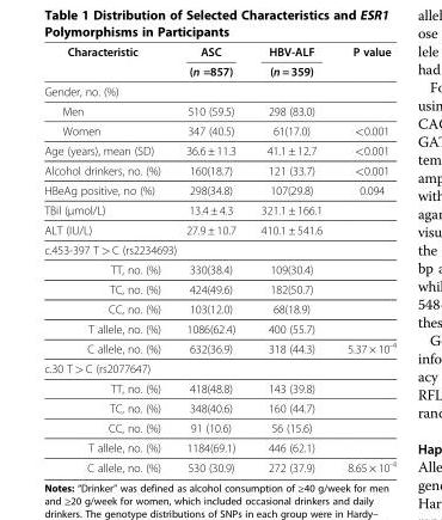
<table><thead><tr><td rowspan="2">Characteristic</td><td rowspan="2">ASC (n =857)</td><td rowspan="2">HBV-ALF (n = 359)</td><td rowspan="2">P value</td></tr><tr></tr></thead><tbody><tr><td colspan="4">Gender, no. (%)</td></tr><tr><td>Men</td><td>510 (59.5)</td><td>298 (83.0)</td><td></td></tr><tr><td>Women</td><td>347 (40.5)</td><td>61(17.0)</td><td>&lt;0.001</td></tr><tr><td>Age (years), mean (SD)</td><td>36.6 ± 11.3</td><td>41.1 ± 12.7</td><td>&lt;0.001</td></tr><tr><td>Alcohol drinkers, no. (%)</td><td>160(18.7)</td><td>121 (33.7)</td><td>&lt;0.001</td></tr><tr><td>HBeAg positive, no (%)</td><td>298(34.8)</td><td>107(29.8)</td><td>0.094</td></tr><tr><td>TBil (μmol/L)</td><td>13.4 ± 4.3</td><td>321.1 ± 166.1</td><td></td></tr><tr><td>ALT (IU/L)</td><td>27.9 ± 10.7</td><td>410.1 ± 541.6</td><td></td></tr><tr><td colspan="4">c.453-397 T &gt; C (rs2234693)</td></tr><tr><td>TT, no. (%)</td><td>330(38.4)</td><td>109(30.4)</td><td></td></tr><tr><td>TC, no. (%)</td><td>424(49.6)</td><td>182(50.7)</td><td></td></tr><tr><td>CC, no. (%)</td><td>103(12.0)</td><td>68(18.9)</td><td></td></tr><tr><td>T allele, no. (%)</td><td>1086(62.4)</td><td>400 (55.7)</td><td></td></tr><tr><td>C allele, no. (%)</td><td>632(36.9)</td><td>318 (44.3)</td><td>5.37 × 10<sup>-4</sup></td></tr><tr><td colspan="4">c.30 T &gt; C (rs2077647)</td></tr><tr><td>TT, no. (%)</td><td>418(48.8)</td><td>143 (39.8)</td><td></td></tr><tr><td>TC, no. (%)</td><td>348(40.6)</td><td>160 (44.7)</td><td></td></tr><tr><td>CC, no. (%)</td><td>91 (10.6)</td><td>56 (15.6)</td><td></td></tr><tr><td>T allele, no. (%)</td><td>1184(69.1)</td><td>446 (62.1)</td><td></td></tr><tr><td>C allele, no. (%)</td><td>530 (30.9)</td><td>272 (37.9)</td><td>8.65 × 10<sup>-4</sup></td></tr></tbody></table>